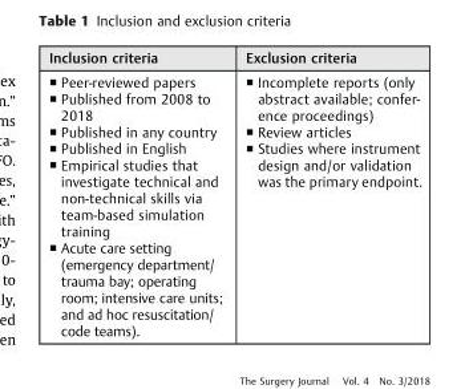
<table><thead><tr><td>Inclusion criteria</td><td>Exclusion criteria</td></tr></thead><tbody><tr><td>▪ Peer-reviewed papers ▪ Published from 2008 to 2018 ▪ Published in any country ▪ Published in English ▪ Empirical studies that investigate technical and non-technical skills via team-based simulation training ▪ Acute care setting (emergency department/ trauma bay; operating room; intensive care units; and ad hoc resuscitation/ code teams).</td><td>&amp; Incomplete reports (only abstract available; confer- ence proceedings) &amp; Review articles &amp; Studies where instrument design and/or validation was the primary endpoint.</td></tr></tbody></table>